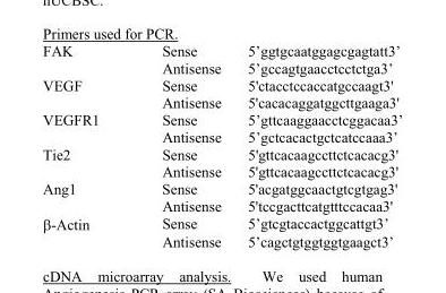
<table><tbody><tr><td rowspan="2">FAK</td><td>Sense</td><td>5’ggtgcaatggagcgagtatt3’</td></tr><tr><td>Antisense</td><td>5’gccagtgaacctcctctga3’</td></tr><tr><td rowspan="2">VEGF</td><td>Sense</td><td>5&#x27;ctacctccaccatgccaagt3&#x27;</td></tr><tr><td>Antisense</td><td>5&#x27;cacacaggatggcttgaaga3&#x27;</td></tr><tr><td rowspan="2">VEGFR1</td><td>Sense</td><td>5’gttcaaggaacctcggacaa3’</td></tr><tr><td>Antisense</td><td>5’gctcacactgctcatccaaa3’</td></tr><tr><td rowspan="2">Tie2</td><td>Sense</td><td>5&#x27;gttcacaagccttctcacacg3&#x27;</td></tr><tr><td>Antisense</td><td>5&#x27;gttcacaagccttctcacacg3&#x27;</td></tr><tr><td rowspan="2">Ang1</td><td>Sense</td><td>5&#x27;acgatggcaactgtcgtgag3&#x27;</td></tr><tr><td>Antisense</td><td>5&#x27;tccgacttcatgtttccacaa3&#x27;</td></tr><tr><td rowspan="2">β-Actin</td><td>Sense</td><td>5’gtcgtaccactggcattgt3’</td></tr><tr><td>Antisense</td><td>5’cagctgtggtggtgaagct3’</td></tr></tbody></table>